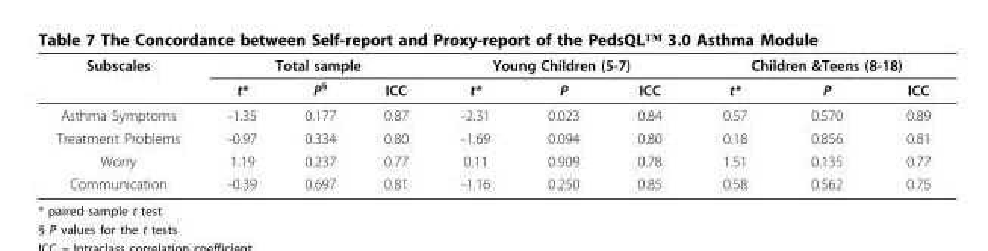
<table><thead><tr><td rowspan="2">Subscales</td><td colspan="3">Total sample</td><td colspan="3">Young Children (5-7)</td><td colspan="3">Children &amp;Teens (8-18)</td></tr><tr><td>t*</td><td>P<sup>§</sup></td><td>ICC</td><td>t*</td><td>P</td><td>ICC</td><td>t*</td><td>P</td><td>ICC</td></tr></thead><tbody><tr><td>Asthma Symptoms</td><td>-1.35</td><td>0.177</td><td>0.87</td><td>-2.31</td><td>0.023</td><td>0.84</td><td>0.57</td><td>0.570</td><td>0.89</td></tr><tr><td>Treatment Problems</td><td>-0.97</td><td>0.334</td><td>0.80</td><td>-1.69</td><td>0.094</td><td>0.80</td><td>0.18</td><td>0.856</td><td>0.81</td></tr><tr><td>Worry</td><td>1.19</td><td>0.237</td><td>0.77</td><td>0.11</td><td>0.909</td><td>0.78</td><td>1.51</td><td>0.135</td><td>0.77</td></tr><tr><td>Communication</td><td>-0.39</td><td>0.697</td><td>0.81</td><td>-1.16</td><td>0.250</td><td>0.85</td><td>0.58</td><td>0.562</td><td>0.75</td></tr></tbody></table>